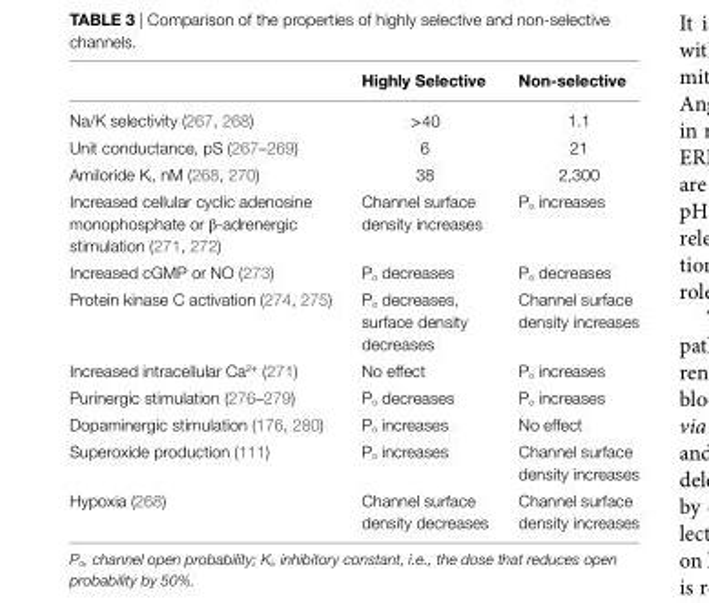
<table><thead><tr><td></td><td>Highly Selective</td><td>Non-selective</td></tr></thead><tbody><tr><td>Na/K selectivity (267, 268)</td><td>&gt;40</td><td>1.1</td></tr><tr><td>Unit conductance, pS (267–269)</td><td>6</td><td>21</td></tr><tr><td>Amiloride K<sub>i</sub>, nM (268, 270)</td><td>38</td><td>2,300</td></tr><tr><td>Increased cellular cyclic adenosine monophosphate or β-adrenergic stimulation (271, 272)</td><td>Channel surface density increases</td><td>P<sub>o</sub> increases</td></tr><tr><td>Increased cGMP or NO (273)</td><td>P<sub>o</sub> decreases</td><td>P<sub>o</sub> decreases</td></tr><tr><td>Protein kinase C activation (274, 275)</td><td>P<sub>o</sub> decreases, surface density decreases</td><td>Channel surface density increases</td></tr><tr><td>Increased intracellular Ca<sup>2+</sup> (271)</td><td>No effect</td><td>P<sub>o</sub> increases</td></tr><tr><td>Purinergic stimulation (276–279)</td><td>P<sub>o</sub> decreases</td><td>P<sub>o</sub> increases</td></tr><tr><td>Dopaminergic stimulation (176, 280)</td><td>P<sub>o</sub> increases</td><td>No effect</td></tr><tr><td>Superoxide production (111)</td><td>P<sub>o</sub> increases</td><td>Channel surface density increases</td></tr><tr><td>Hypoxia (268)</td><td>Channel surface density decreases</td><td>Channel surface density increases</td></tr></tbody></table>